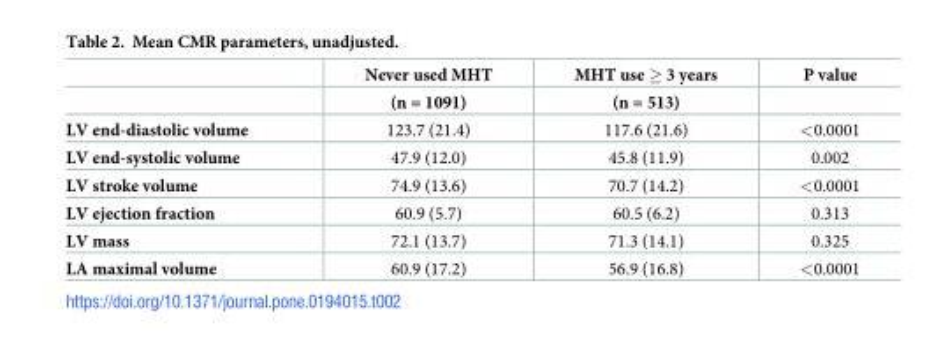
<table><thead><tr><td rowspan="2"></td><td rowspan="2">Never used MHT (n = 1091)</td><td rowspan="2">MHT use ≥ 3 years (n = 513)</td><td rowspan="2">P value</td></tr><tr></tr></thead><tbody><tr><td>LV end-diastolic volume</td><td>123.7 (21.4)</td><td>117.6 (21.6)</td><td>&lt;0.0001</td></tr><tr><td>LV end-systolic volume</td><td>47.9 (12.0)</td><td>45.8 (11.9)</td><td>0.002</td></tr><tr><td>LV stroke volume</td><td>74.9 (13.6)</td><td>70.7 (14.2)</td><td>&lt;0.0001</td></tr><tr><td>LV ejection fraction</td><td>60.9 (5.7)</td><td>60.5 (6.2)</td><td>0.313</td></tr><tr><td>LV mass</td><td>72.1 (13.7)</td><td>71.3 (14.1)</td><td>0.325</td></tr><tr><td>LA maximal volume</td><td>60.9 (17.2)</td><td>56.9 (16.8)</td><td>&lt;0.0001</td></tr></tbody></table>